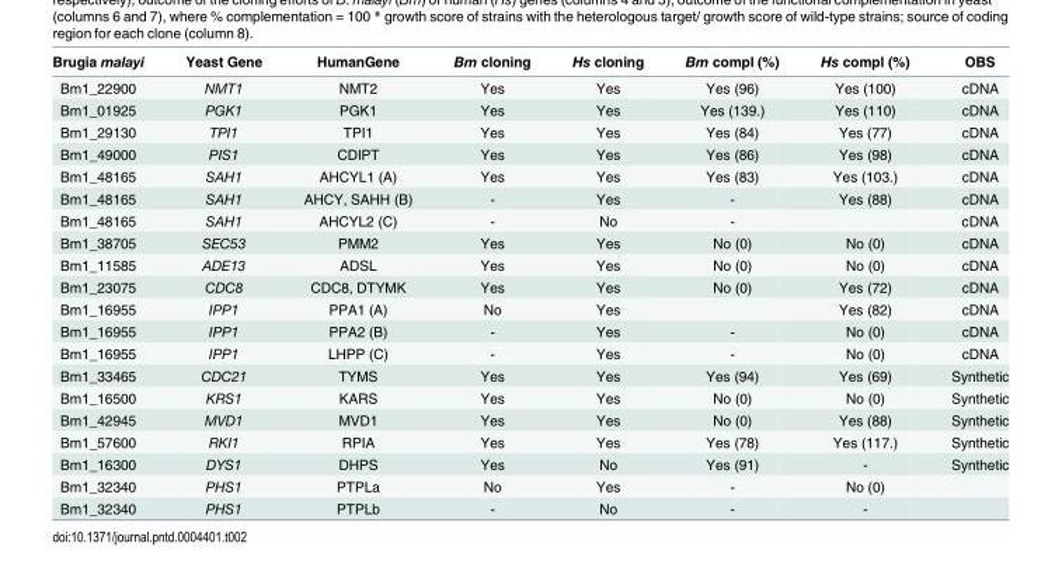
<table><thead><tr><td>Brugia malayi</td><td>Yeast Gene</td><td>HumanGene</td><td>Bm cloning</td><td>Hs cloning</td><td>Bm compl (%)</td><td>Hs compl (%)</td><td>OBS</td></tr></thead><tbody><tr><td>Bm1_22900</td><td>NMT1</td><td>NMT2</td><td>Yes</td><td>Yes</td><td>Yes (96)</td><td>Yes (100)</td><td>cDNA</td></tr><tr><td>Bm1_01925</td><td>PGK1</td><td>PGK1</td><td>Yes</td><td>Yes</td><td>Yes (139.)</td><td>Yes (110)</td><td>cDNA</td></tr><tr><td>Bm1_29130</td><td>TPI1</td><td>TPI1</td><td>Yes</td><td>Yes</td><td>Yes (84)</td><td>Yes (77)</td><td>cDNA</td></tr><tr><td>Bm1_49000</td><td>PIS1</td><td>CDIPT</td><td>Yes</td><td>Yes</td><td>Yes (86)</td><td>Yes (98)</td><td>cDNA</td></tr><tr><td>Bm1_48165</td><td>SAH1</td><td>AHCYL1 (A)</td><td>Yes</td><td>Yes</td><td>Yes (83)</td><td>Yes (103.)</td><td>cDNA</td></tr><tr><td>Bm1_48165</td><td>SAH1</td><td>AHCY, SAHH (B)</td><td>-</td><td>Yes</td><td>-</td><td>Yes (88)</td><td>cDNA</td></tr><tr><td>Bm1_48165</td><td>SAH1</td><td>AHCYL2 (C)</td><td>-</td><td>No</td><td>-</td><td></td><td>cDNA</td></tr><tr><td>Bm1_38705</td><td>SEC53</td><td>PMM2</td><td>Yes</td><td>Yes</td><td>No (0)</td><td>No (0)</td><td>cDNA</td></tr><tr><td>Bm1_11585</td><td>ADE13</td><td>ADSL</td><td>Yes</td><td>Yes</td><td>No (0)</td><td>No (0)</td><td>cDNA</td></tr><tr><td>Bm1_23075</td><td>CDC8</td><td>CDC8, DTYMK</td><td>Yes</td><td>Yes</td><td>No (0)</td><td>Yes (72)</td><td>cDNA</td></tr><tr><td>Bm1_16955</td><td>IPP1</td><td>PPA1 (A)</td><td>No</td><td>Yes</td><td></td><td>Yes (82)</td><td>cDNA</td></tr><tr><td>Bm1_16955</td><td>IPP1</td><td>PPA2 (B)</td><td>-</td><td>Yes</td><td>-</td><td>No (0)</td><td>cDNA</td></tr><tr><td>Bm1_16955</td><td>IPP1</td><td>LHPP (C)</td><td>-</td><td>Yes</td><td>-</td><td>No (0)</td><td>cDNA</td></tr><tr><td>Bm1_33465</td><td>CDC21</td><td>TYMS</td><td>Yes</td><td>Yes</td><td>Yes (94)</td><td>Yes (69)</td><td>Synthetic</td></tr><tr><td>Bm1_16500</td><td>KRS1</td><td>KARS</td><td>Yes</td><td>Yes</td><td>No (0)</td><td>No (0)</td><td>Synthetic</td></tr><tr><td>Bm1_42945</td><td>MVD1</td><td>MVD1</td><td>Yes</td><td>Yes</td><td>No (0)</td><td>Yes (88)</td><td>Synthetic</td></tr><tr><td>Bm1_57600</td><td>RKI1</td><td>RPIA</td><td>Yes</td><td>Yes</td><td>Yes (78)</td><td>Yes (117.)</td><td>Synthetic</td></tr><tr><td>Bm1_16300</td><td>DYS1</td><td>DHPS</td><td>Yes</td><td>No</td><td>Yes (91)</td><td>-</td><td>Synthetic</td></tr><tr><td>Bm1_32340</td><td>PHS1</td><td>PTPLa</td><td>No</td><td>Yes</td><td>-</td><td>No (0)</td><td></td></tr><tr><td>Bm1_32340</td><td>PHS1</td><td>PTPLb</td><td>-</td><td>No</td><td>-</td><td>-</td><td></td></tr></tbody></table>